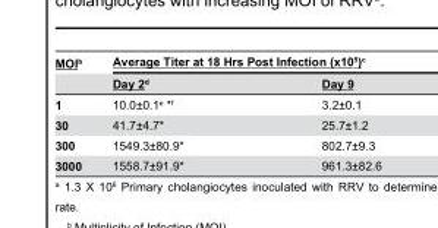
<table><thead><tr><td rowspan="2">MOI<sup>b</sup></td><td colspan="2">Average Titer at 18 Hrs Post Infection (x10<sup>5</sup>)<sup>c</sup></td></tr><tr><td>Day 2<sup>d</sup></td><td>Day 9</td></tr></thead><tbody><tr><td>1</td><td>10.0±0.1<sup>e</sup> *<sup>f</sup></td><td>3.2±0.1</td></tr><tr><td>30</td><td>41.7±4.7*</td><td>25.7±1.2</td></tr><tr><td>300</td><td>1549.3±80.9*</td><td>802.7±9.3</td></tr><tr><td>3000</td><td>1558.7±91.9*</td><td>961.3±82.6</td></tr></tbody></table>